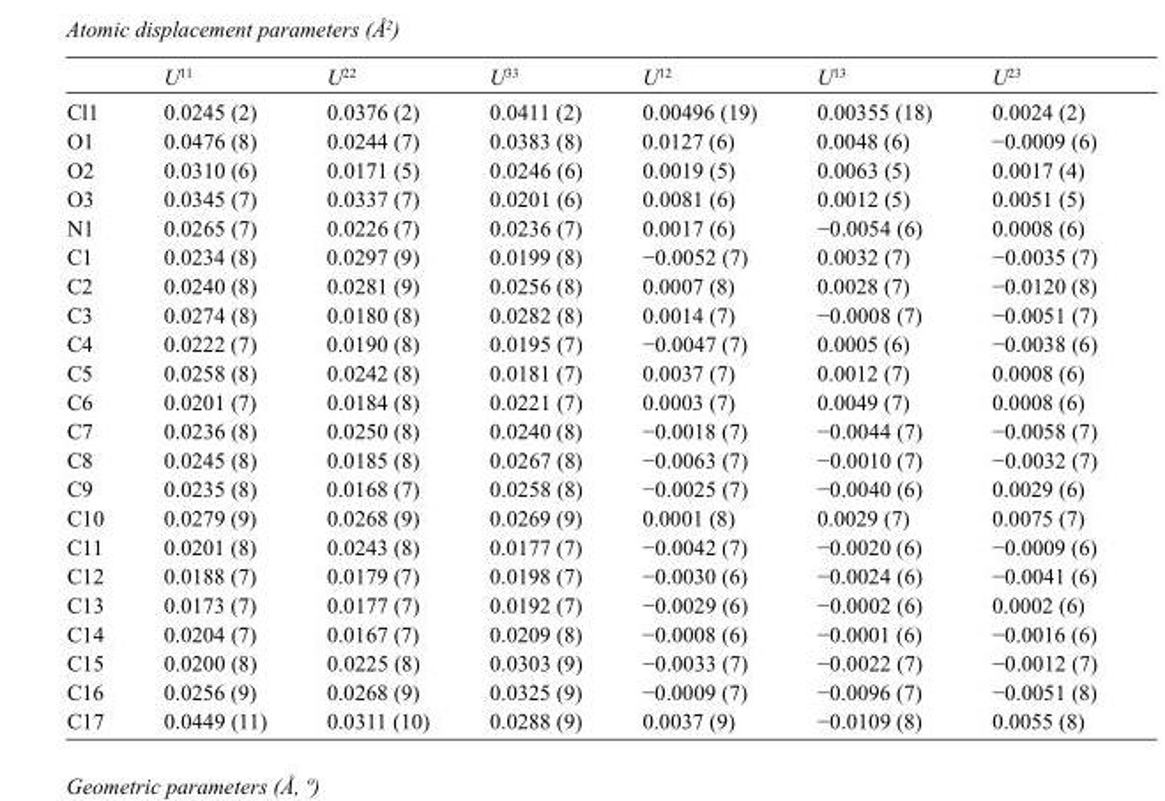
<table><thead><tr><td></td><td>U<sup>11</sup></td><td>U<sup>22</sup></td><td>U<sup>33</sup></td><td>U<sup>12</sup></td><td>U<sup>13</sup></td><td>U<sup>23</sup></td></tr></thead><tbody><tr><td>Cl1</td><td>0.0245 (2)</td><td>0.0376 (2)</td><td>0.0411 (2)</td><td>0.00496 (19)</td><td>0.00355 (18)</td><td>0.0024 (2)</td></tr><tr><td>O1</td><td>0.0476 (8)</td><td>0.0244 (7)</td><td>0.0383 (8)</td><td>0.0127 (6)</td><td>0.0048 (6)</td><td>−0.0009 (6)</td></tr><tr><td>O2</td><td>0.0310 (6)</td><td>0.0171 (5)</td><td>0.0246 (6)</td><td>0.0019 (5)</td><td>0.0063 (5)</td><td>0.0017 (4)</td></tr><tr><td>O3</td><td>0.0345 (7)</td><td>0.0337 (7)</td><td>0.0201 (6)</td><td>0.0081 (6)</td><td>0.0012 (5)</td><td>0.0051 (5)</td></tr><tr><td>N1</td><td>0.0265 (7)</td><td>0.0226 (7)</td><td>0.0236 (7)</td><td>0.0017 (6)</td><td>−0.0054 (6)</td><td>0.0008 (6)</td></tr><tr><td>C1</td><td>0.0234 (8)</td><td>0.0297 (9)</td><td>0.0199 (8)</td><td>−0.0052 (7)</td><td>0.0032 (7)</td><td>−0.0035 (7)</td></tr><tr><td>C2</td><td>0.0240 (8)</td><td>0.0281 (9)</td><td>0.0256 (8)</td><td>0.0007 (8)</td><td>0.0028 (7)</td><td>−0.0120 (8)</td></tr><tr><td>C3</td><td>0.0274 (8)</td><td>0.0180 (8)</td><td>0.0282 (8)</td><td>0.0014 (7)</td><td>−0.0008 (7)</td><td>−0.0051 (7)</td></tr><tr><td>C4</td><td>0.0222 (7)</td><td>0.0190 (8)</td><td>0.0195 (7)</td><td>−0.0047 (7)</td><td>0.0005 (6)</td><td>−0.0038 (6)</td></tr><tr><td>C5</td><td>0.0258 (8)</td><td>0.0242 (8)</td><td>0.0181 (7)</td><td>0.0037 (7)</td><td>0.0012 (7)</td><td>0.0008 (6)</td></tr><tr><td>C6</td><td>0.0201 (7)</td><td>0.0184 (8)</td><td>0.0221 (7)</td><td>0.0003 (7)</td><td>0.0049 (7)</td><td>0.0008 (6)</td></tr><tr><td>C7</td><td>0.0236 (8)</td><td>0.0250 (8)</td><td>0.0240 (8)</td><td>−0.0018 (7)</td><td>−0.0044 (7)</td><td>−0.0058 (7)</td></tr><tr><td>C8</td><td>0.0245 (8)</td><td>0.0185 (8)</td><td>0.0267 (8)</td><td>−0.0063 (7)</td><td>−0.0010 (7)</td><td>−0.0032 (7)</td></tr><tr><td>C9</td><td>0.0235 (8)</td><td>0.0168 (7)</td><td>0.0258 (8)</td><td>−0.0025 (7)</td><td>−0.0040 (6)</td><td>0.0029 (6)</td></tr><tr><td>C10</td><td>0.0279 (9)</td><td>0.0268 (9)</td><td>0.0269 (9)</td><td>0.0001 (8)</td><td>0.0029 (7)</td><td>0.0075 (7)</td></tr><tr><td>C11</td><td>0.0201 (8)</td><td>0.0243 (8)</td><td>0.0177 (7)</td><td>−0.0042 (7)</td><td>−0.0020 (6)</td><td>−0.0009 (6)</td></tr><tr><td>C12</td><td>0.0188 (7)</td><td>0.0179 (7)</td><td>0.0198 (7)</td><td>−0.0030 (6)</td><td>−0.0024 (6)</td><td>−0.0041 (6)</td></tr><tr><td>C13</td><td>0.0173 (7)</td><td>0.0177 (7)</td><td>0.0192 (7)</td><td>−0.0029 (6)</td><td>−0.0002 (6)</td><td>0.0002 (6)</td></tr><tr><td>C14</td><td>0.0204 (7)</td><td>0.0167 (7)</td><td>0.0209 (8)</td><td>−0.0008 (6)</td><td>−0.0001 (6)</td><td>−0.0016 (6)</td></tr><tr><td>C15</td><td>0.0200 (8)</td><td>0.0225 (8)</td><td>0.0303 (9)</td><td>−0.0033 (7)</td><td>−0.0022 (7)</td><td>−0.0012 (7)</td></tr><tr><td>C16</td><td>0.0256 (9)</td><td>0.0268 (9)</td><td>0.0325 (9)</td><td>−0.0009 (7)</td><td>−0.0096 (7)</td><td>−0.0051 (8)</td></tr><tr><td>C17</td><td>0.0449 (11)</td><td>0.0311 (10)</td><td>0.0288 (9)</td><td>0.0037 (9)</td><td>−0.0109 (8)</td><td>0.0055 (8)</td></tr></tbody></table>